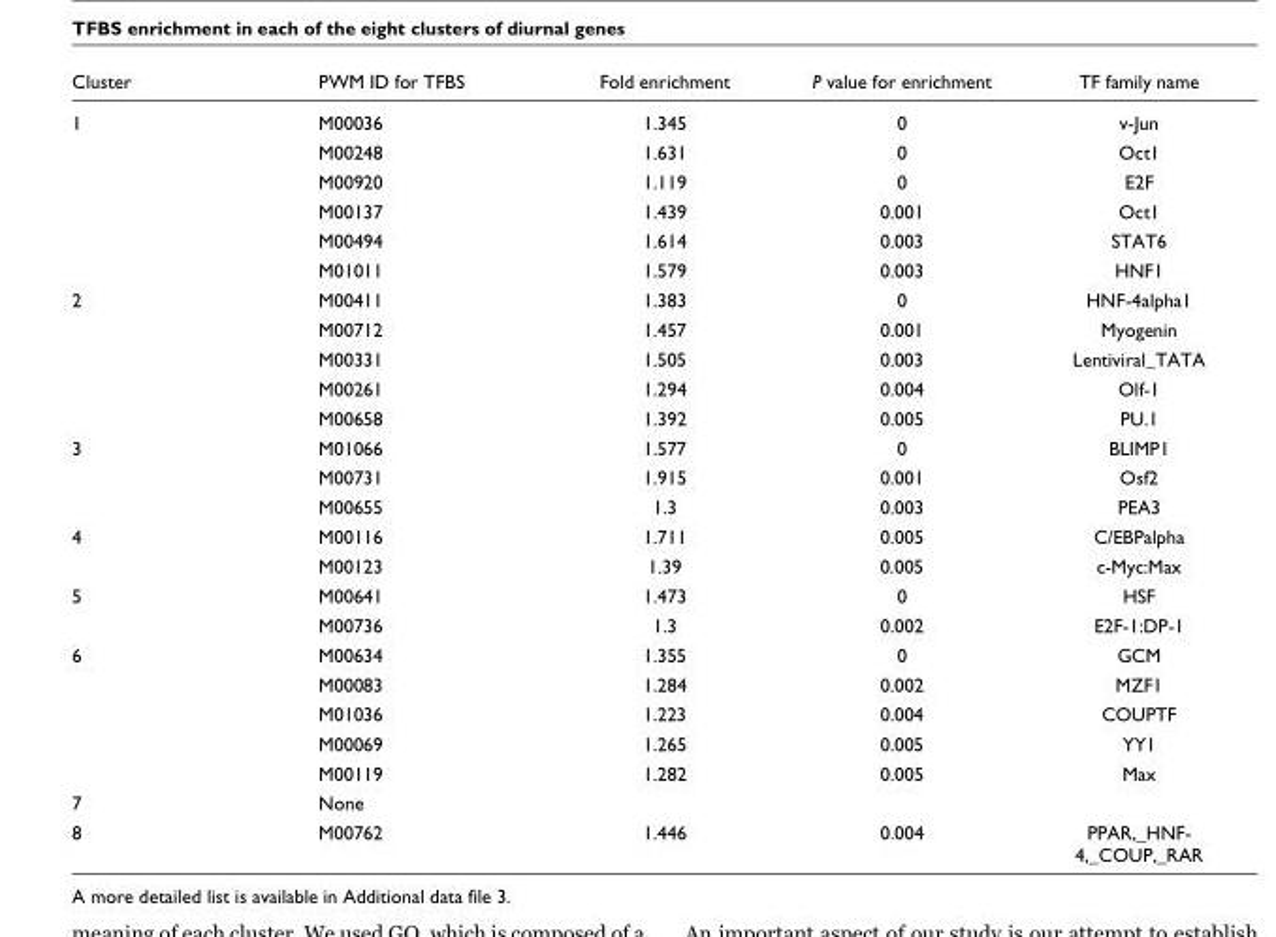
<table><thead><tr><td>Cluster</td><td>PWM ID for TFBS</td><td>Fold enrichment</td><td>P value for enrichment</td><td>TF family name</td></tr></thead><tbody><tr><td rowspan="6">1</td><td>M00036</td><td>1.345</td><td>0</td><td>v-Jun</td></tr><tr><td>M00248</td><td>1.631</td><td>0</td><td>Oct1</td></tr><tr><td>M00920</td><td>1.119</td><td>0</td><td>E2F</td></tr><tr><td>M00137</td><td>1.439</td><td>0.001</td><td>Oct1</td></tr><tr><td>M00494</td><td>1.614</td><td>0.003</td><td>STAT6</td></tr><tr><td>M01011</td><td>1.579</td><td>0.003</td><td>HNF1</td></tr><tr><td rowspan="5">2</td><td>M00411</td><td>1.383</td><td>0</td><td>HNF-4alpha1</td></tr><tr><td>M00712</td><td>1.457</td><td>0.001</td><td>Myogenin</td></tr><tr><td>M00331</td><td>1.505</td><td>0.003</td><td>Lentiviral_TATA</td></tr><tr><td>M00261</td><td>1.294</td><td>0.004</td><td>Olf-1</td></tr><tr><td>M00658</td><td>1.392</td><td>0.005</td><td>PU.1</td></tr><tr><td rowspan="3">3</td><td>M01066</td><td>1.577</td><td>0</td><td>BLIMP1</td></tr><tr><td>M00731</td><td>1.915</td><td>0.001</td><td>Osf2</td></tr><tr><td>M00655</td><td>1.3</td><td>0.003</td><td>PEA3</td></tr><tr><td rowspan="2">4</td><td>M00116</td><td>1.711</td><td>0.005</td><td>C/EBPalpha</td></tr><tr><td>M00123</td><td>1.39</td><td>0.005</td><td>c-Myc:Max</td></tr><tr><td rowspan="2">5</td><td>M00641</td><td>1.473</td><td>0</td><td>HSF</td></tr><tr><td>M00736</td><td>1.3</td><td>0.002</td><td>E2F-1:DP-1</td></tr><tr><td rowspan="5">6</td><td>M00634</td><td>1.355</td><td>0</td><td>GCM</td></tr><tr><td>M00083</td><td>1.284</td><td>0.002</td><td>MZF1</td></tr><tr><td>M01036</td><td>1.223</td><td>0.004</td><td>COUPTF</td></tr><tr><td>M00069</td><td>1.265</td><td>0.005</td><td>YY1</td></tr><tr><td>M00119</td><td>1.282</td><td>0.005</td><td>Max</td></tr><tr><td>7</td><td>None</td><td></td><td></td><td></td></tr><tr><td>8</td><td>M00762</td><td>1.446</td><td>0.004</td><td>PPAR,_HNF- 4,_COUP,_RAR</td></tr></tbody></table>